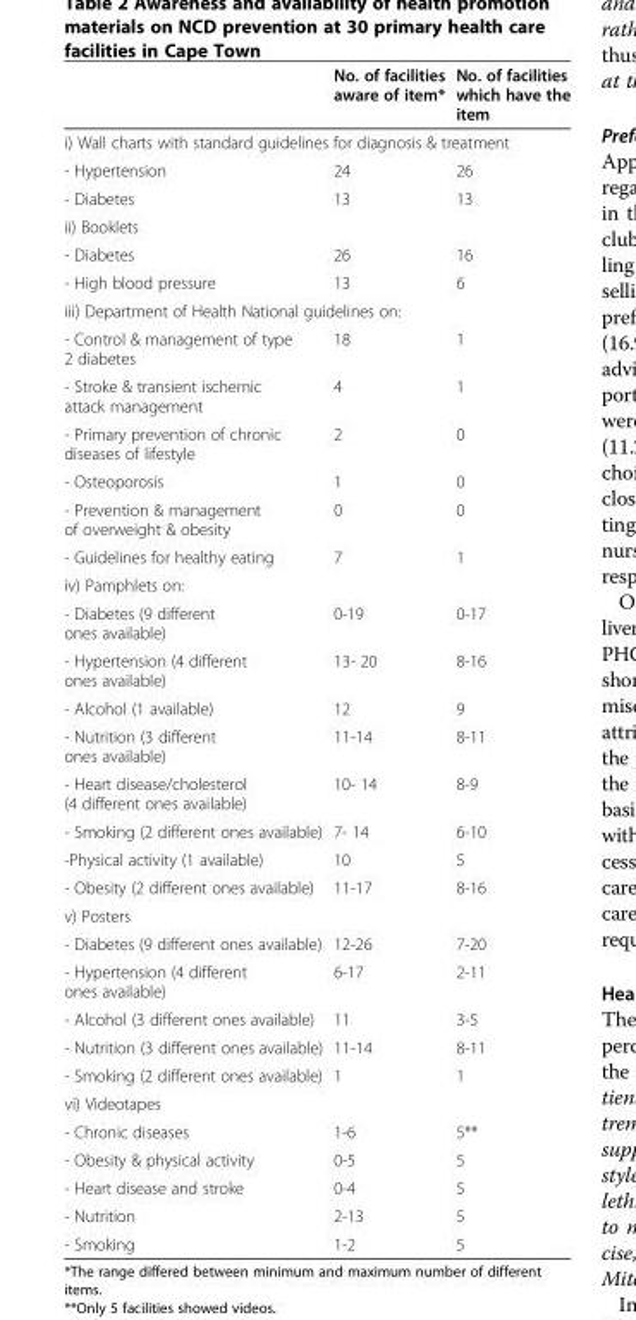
<table><thead><tr><td></td><td>No. of facilities aware of item*</td><td>No. of facilities which have the item</td></tr></thead><tbody><tr><td colspan="3">i) Wall charts with standard guidelines for diagnosis &amp; treatment</td></tr><tr><td>- Hypertension</td><td>24</td><td>26</td></tr><tr><td>- Diabetes</td><td>13</td><td>13</td></tr><tr><td colspan="3">ii) Booklets</td></tr><tr><td>- Diabetes</td><td>26</td><td>16</td></tr><tr><td>- High blood pressure</td><td>13</td><td>6</td></tr><tr><td colspan="3">iii) Department of Health National guidelines on:</td></tr><tr><td>- Control &amp; management of type 2 diabetes</td><td>18</td><td>1</td></tr><tr><td>- Stroke &amp; transient ischemic attack management</td><td>4</td><td>1</td></tr><tr><td>- Primary prevention of chronic diseases of lifestyle</td><td>2</td><td>0</td></tr><tr><td>- Osteoporosis</td><td>1</td><td>0</td></tr><tr><td>- Prevention &amp; management of overweight &amp; obesity</td><td>0</td><td>0</td></tr><tr><td>- Guidelines for healthy eating</td><td>7</td><td>1</td></tr><tr><td colspan="3">iv) Pamphlets on:</td></tr><tr><td>- Diabetes (9 different ones available)</td><td>0-19</td><td>0-17</td></tr><tr><td>- Hypertension (4 different ones available)</td><td>13- 20</td><td>8-16</td></tr><tr><td>- Alcohol (1 available)</td><td>12</td><td>9</td></tr><tr><td>- Nutrition (3 different ones available)</td><td>11-14</td><td>8-11</td></tr><tr><td>- Heart disease/cholesterol (4 different ones available)</td><td>10- 14</td><td>8-9</td></tr><tr><td>- Smoking (2 different ones available)</td><td>7- 14</td><td>6-10</td></tr><tr><td>-Physical activity (1 available)</td><td>10</td><td>5</td></tr><tr><td>- Obesity (2 different ones available)</td><td>11-17</td><td>8-16</td></tr><tr><td colspan="3">v) Posters</td></tr><tr><td>- Diabetes (9 different ones available)</td><td>12-26</td><td>7-20</td></tr><tr><td>- Hypertension (4 different ones available)</td><td>6-17</td><td>2-11</td></tr><tr><td>- Alcohol (3 different ones available)</td><td>11</td><td>3-5</td></tr><tr><td>- Nutrition (3 different ones available)</td><td>11-14</td><td>8-11</td></tr><tr><td>- Smoking (2 different ones available)</td><td>1</td><td>1</td></tr><tr><td colspan="3">vi) Videotapes</td></tr><tr><td>- Chronic diseases</td><td>1-6</td><td>5**</td></tr><tr><td>- Obesity &amp; physical activity</td><td>0-5</td><td>5</td></tr><tr><td>- Heart disease and stroke</td><td>0-4</td><td>5</td></tr><tr><td>- Nutrition</td><td>2-13</td><td>5</td></tr><tr><td>- Smoking</td><td>1-2</td><td>5</td></tr></tbody></table>